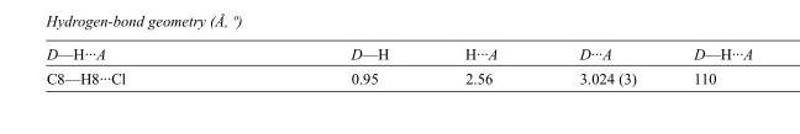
<table><tbody><tr><td>D—H···A</td><td>D—H</td><td>H···A</td><td>D···A</td><td>D—H···A</td></tr><tr><td>C8—H8···Cl</td><td>0.95</td><td>2.56</td><td>3.024 (3)</td><td>110</td></tr></tbody></table>